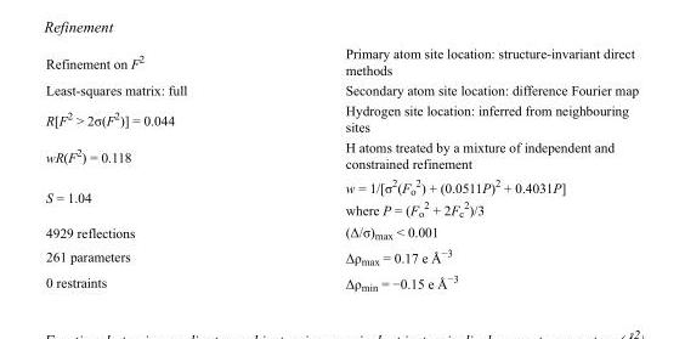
<table><tbody><tr><td>Refinement on F<sup>2</sup></td><td>Primary atom site location: structure-invariant direct methods</td></tr><tr><td>Least-squares matrix: full</td><td>Secondary atom site location: difference Fourier map</td></tr><tr><td>R[F<sup>2</sup> &gt; 2σ(F<sup>2</sup>)] = 0.044</td><td>Hydrogen site location: inferred from neighbouring sites</td></tr><tr><td>wR(F<sup>2</sup>) = 0.118</td><td>H atoms treated by a mixture of independent and constrained refinement</td></tr><tr><td>S = 1.04</td><td>w = 1/[σ<sup>2</sup>(F<sub>o</sub> <sup>2</sup>) + (0.0511P)<sup>2</sup> + 0.4031P] where P = (F<sub>o</sub> <sup>2</sup> + 2F<sub>c</sub> <sup>2</sup>)/3</td></tr><tr><td>4929 reflections</td><td>(Δ/σ)<sub>max</sub> &lt; 0.001</td></tr><tr><td>261 parameters</td><td>Δρ<sub>max</sub> = 0.17 e Å<sup>−3</sup></td></tr><tr><td>0 restraints</td><td>Δρ<sub>min</sub> = −0.15 e Å<sup>−3</sup></td></tr></tbody></table>